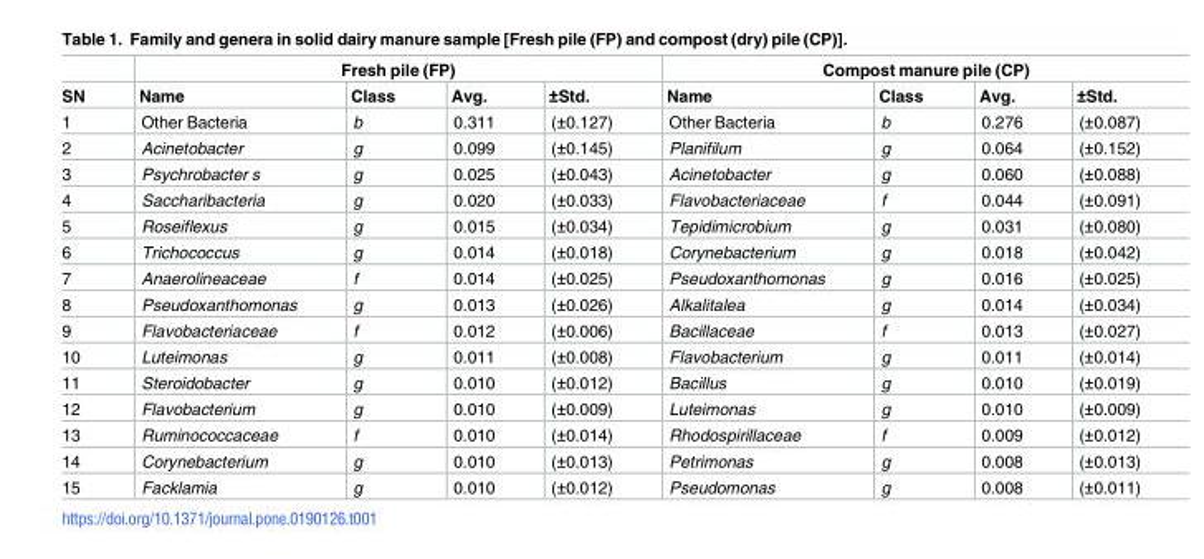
<table><thead><tr><td rowspan="2">SN</td><td colspan="4">Fresh pile (FP)</td><td colspan="4">Compost manure pile (CP)</td></tr><tr><td>Name</td><td>Class</td><td>Avg.</td><td>±Std.</td><td>Name</td><td>Class</td><td>Avg.</td><td>±Std.</td></tr></thead><tbody><tr><td>1</td><td>Other Bacteria</td><td>b</td><td>0.311</td><td>(±0.127)</td><td>Other Bacteria</td><td>b</td><td>0.276</td><td>(±0.087)</td></tr><tr><td>2</td><td>Acinetobacter</td><td>g</td><td>0.099</td><td>(±0.145)</td><td>Planifilum</td><td>g</td><td>0.064</td><td>(±0.152)</td></tr><tr><td>3</td><td>Psychrobacter s</td><td>g</td><td>0.025</td><td>(±0.043)</td><td>Acinetobacter</td><td>g</td><td>0.060</td><td>(±0.088)</td></tr><tr><td>4</td><td>Saccharibacteria</td><td>g</td><td>0.020</td><td>(±0.033)</td><td>Flavobacteriaceae</td><td>f</td><td>0.044</td><td>(±0.091)</td></tr><tr><td>5</td><td>Roseiflexus</td><td>g</td><td>0.015</td><td>(±0.034)</td><td>Tepidimicrobium</td><td>g</td><td>0.031</td><td>(±0.080)</td></tr><tr><td>6</td><td>Trichococcus</td><td>g</td><td>0.014</td><td>(±0.018)</td><td>Corynebacterium</td><td>g</td><td>0.018</td><td>(±0.042)</td></tr><tr><td>7</td><td>Anaerolineaceae</td><td>f</td><td>0.014</td><td>(±0.025)</td><td>Pseudoxanthomonas</td><td>g</td><td>0.016</td><td>(±0.025)</td></tr><tr><td>8</td><td>Pseudoxanthomonas</td><td>g</td><td>0.013</td><td>(±0.026)</td><td>Alkalitalea</td><td>g</td><td>0.014</td><td>(±0.034)</td></tr><tr><td>9</td><td>Flavobacteriaceae</td><td>f</td><td>0.012</td><td>(±0.006)</td><td>Bacillaceae</td><td>f</td><td>0.013</td><td>(±0.027)</td></tr><tr><td>10</td><td>Luteimonas</td><td>g</td><td>0.011</td><td>(±0.008)</td><td>Flavobacterium</td><td>g</td><td>0.011</td><td>(±0.014)</td></tr><tr><td>11</td><td>Steroidobacter</td><td>g</td><td>0.010</td><td>(±0.012)</td><td>Bacillus</td><td>g</td><td>0.010</td><td>(±0.019)</td></tr><tr><td>12</td><td>Flavobacterium</td><td>g</td><td>0.010</td><td>(±0.009)</td><td>Luteimonas</td><td>g</td><td>0.010</td><td>(±0.009)</td></tr><tr><td>13</td><td>Ruminococcaceae</td><td>f</td><td>0.010</td><td>(±0.014)</td><td>Rhodospirillaceae</td><td>f</td><td>0.009</td><td>(±0.012)</td></tr><tr><td>14</td><td>Corynebacterium</td><td>g</td><td>0.010</td><td>(±0.013)</td><td>Petrimonas</td><td>g</td><td>0.008</td><td>(±0.013)</td></tr><tr><td>15</td><td>Facklamia</td><td>g</td><td>0.010</td><td>(±0.012)</td><td>Pseudomonas</td><td>g</td><td>0.008</td><td>(±0.011)</td></tr></tbody></table>